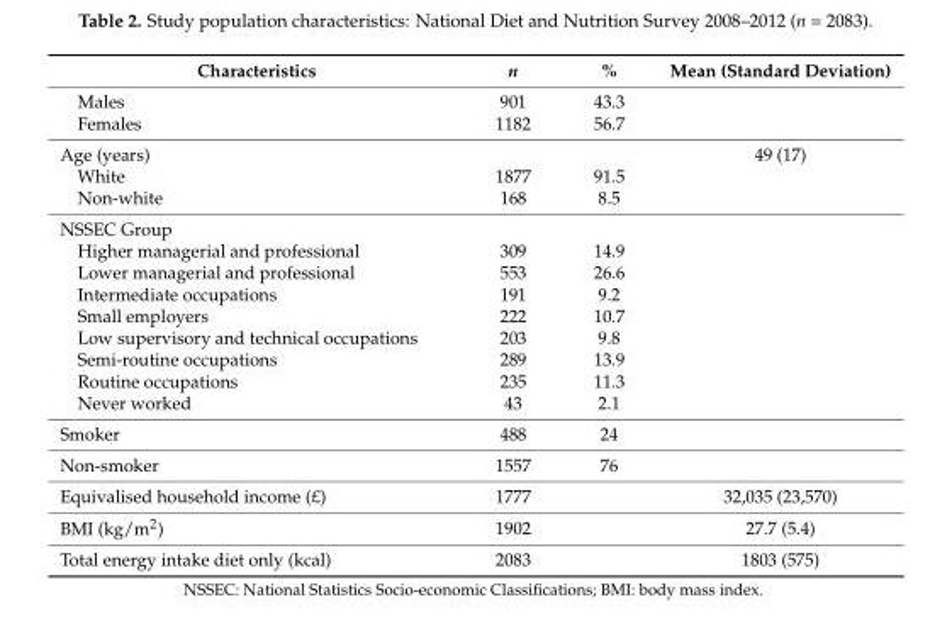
<table><thead><tr><td>Characteristics</td><td>n</td><td>%</td><td>Mean (Standard Deviation)</td></tr></thead><tbody><tr><td>Males</td><td>901</td><td>43.3</td><td></td></tr><tr><td>Females</td><td>1182</td><td>56.7</td><td></td></tr><tr><td>Age (years)</td><td></td><td></td><td>49 (17)</td></tr><tr><td>White</td><td>1877</td><td>91.5</td><td></td></tr><tr><td>Non-white</td><td>168</td><td>8.5</td><td></td></tr><tr><td colspan="4">NSSEC Group</td></tr><tr><td>Higher managerial and professional</td><td>309</td><td>14.9</td><td></td></tr><tr><td>Lower managerial and professional</td><td>553</td><td>26.6</td><td></td></tr><tr><td>Intermediate occupations</td><td>191</td><td>9.2</td><td></td></tr><tr><td>Small employers</td><td>222</td><td>10.7</td><td></td></tr><tr><td>Low supervisory and technical occupations</td><td>203</td><td>9.8</td><td></td></tr><tr><td>Semi-routine occupations</td><td>289</td><td>13.9</td><td></td></tr><tr><td>Routine occupations</td><td>235</td><td>11.3</td><td></td></tr><tr><td>Never worked</td><td>43</td><td>2.1</td><td></td></tr><tr><td>Smoker</td><td>488</td><td>24</td><td></td></tr><tr><td>Non-smoker</td><td>1557</td><td>76</td><td></td></tr><tr><td>Equivalised household income (£)</td><td>1777</td><td></td><td>32,035 (23,570)</td></tr><tr><td>BMI (kg/m<sup>2</sup>)</td><td>1902</td><td></td><td>27.7 (5.4)</td></tr><tr><td>Total energy intake diet only (kcal)</td><td>2083</td><td></td><td>1803 (575)</td></tr></tbody></table>